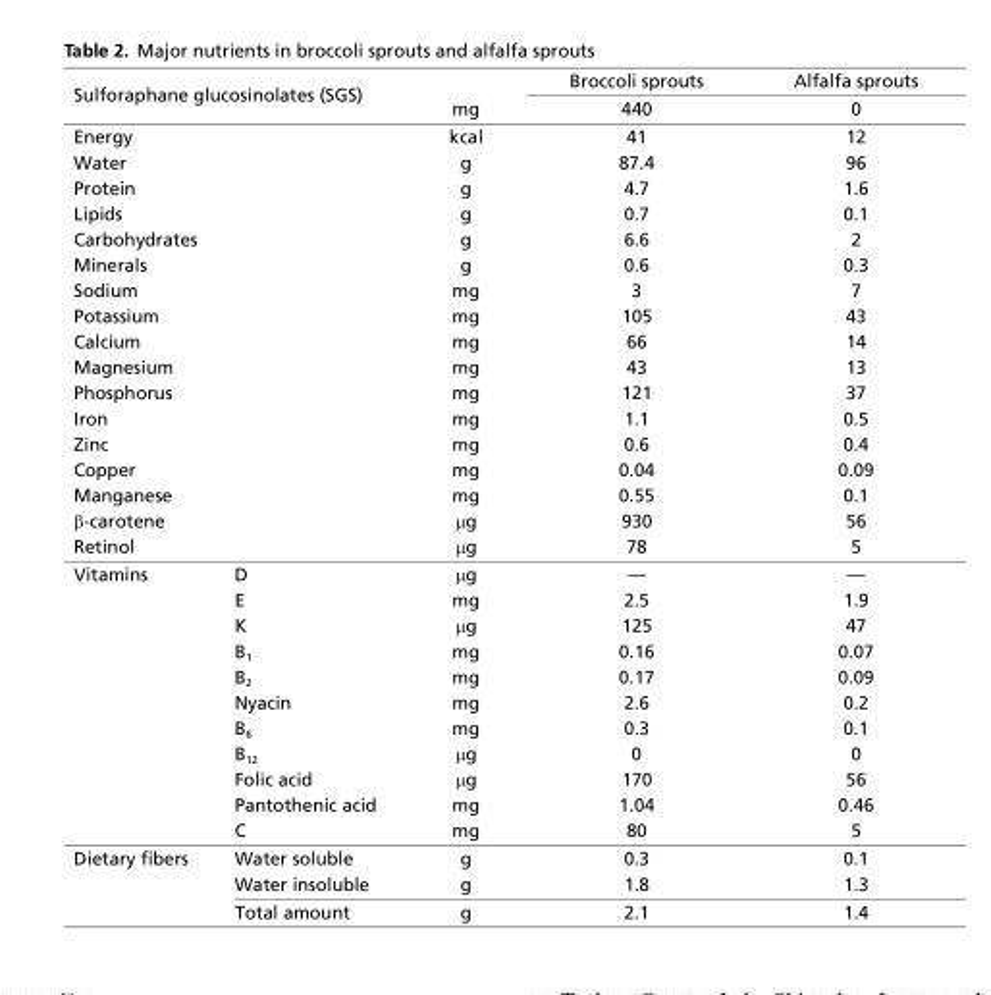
<table><thead><tr><td rowspan="2" colspan="2">Sulforaphane glucosinolates (SGS)</td><td rowspan="3">mg kcal</td><td rowspan="3">Broccoli sprouts 440 41</td><td rowspan="3">Alfalfa sprouts 0 12</td></tr><tr></tr><tr><td>Energy</td><td></td></tr></thead><tbody><tr><td>Water</td><td></td><td>g</td><td>87.4</td><td>96</td></tr><tr><td>Protein</td><td></td><td>g</td><td>4.7</td><td>1.6</td></tr><tr><td>Lipids</td><td></td><td>g</td><td>0.7</td><td>0.1</td></tr><tr><td>Carbohydrates</td><td></td><td>g</td><td>6.6</td><td>2</td></tr><tr><td>Minerals</td><td></td><td>g</td><td>0.6</td><td>0.3</td></tr><tr><td>Sodium</td><td></td><td>mg</td><td>3</td><td>7</td></tr><tr><td>Potassium</td><td></td><td>mg</td><td>105</td><td>43</td></tr><tr><td>Calcium</td><td></td><td>mg</td><td>66</td><td>14</td></tr><tr><td>Magnesium</td><td></td><td>mg</td><td>43</td><td>13</td></tr><tr><td>Phosphorus</td><td></td><td>mg</td><td>121</td><td>37</td></tr><tr><td>Iron</td><td></td><td>mg</td><td>1.1</td><td>0.5</td></tr><tr><td>Zinc</td><td></td><td>mg</td><td>0.6</td><td>0.4</td></tr><tr><td>Copper</td><td></td><td>mg</td><td>0.04</td><td>0.09</td></tr><tr><td>Manganese</td><td></td><td>mg</td><td>0.55</td><td>0.1</td></tr><tr><td>β-carotene</td><td></td><td>μg</td><td>930</td><td>56</td></tr><tr><td>Retinol</td><td></td><td>μg</td><td>78</td><td>5</td></tr><tr><td rowspan="11">Vitamins</td><td>D</td><td>μg</td><td>—</td><td>—</td></tr><tr><td>E</td><td>mg</td><td>2.5</td><td>1.9</td></tr><tr><td>K</td><td>μg</td><td>125</td><td>47</td></tr><tr><td>B<sub>1</sub></td><td>mg</td><td>0.16</td><td>0.07</td></tr><tr><td>B<sub>2</sub></td><td>mg</td><td>0.17</td><td>0.09</td></tr><tr><td>Nyacin</td><td>mg</td><td>2.6</td><td>0.2</td></tr><tr><td>B<sub>6</sub></td><td>mg</td><td>0.3</td><td>0.1</td></tr><tr><td>B<sub>12</sub></td><td>μg</td><td>0</td><td>0</td></tr><tr><td>Folic acid</td><td>μg</td><td>170</td><td>56</td></tr><tr><td>Pantothenic acid</td><td>mg</td><td>1.04</td><td>0.46</td></tr><tr><td>C</td><td>mg</td><td>80</td><td>5</td></tr><tr><td rowspan="3">Dietary fibers</td><td>Water soluble</td><td>g</td><td>0.3</td><td>0.1</td></tr><tr><td>Water insoluble</td><td>g</td><td>1.8</td><td>1.3</td></tr><tr><td>Total amount</td><td>g</td><td>2.1</td><td>1.4</td></tr></tbody></table>